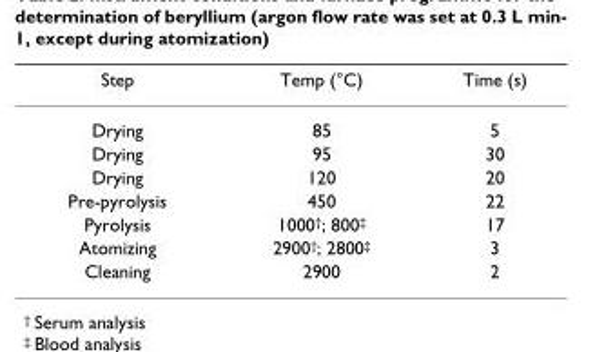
<table><thead><tr><td>Step</td><td>Temp (°C)</td><td>Time (s)</td></tr></thead><tbody><tr><td>Drying</td><td>85</td><td>5</td></tr><tr><td>Drying</td><td>95</td><td>30</td></tr><tr><td>Drying</td><td>120</td><td>20</td></tr><tr><td>Pre-pyrolysis</td><td>450</td><td>22</td></tr><tr><td>Pyrolysis</td><td>1000<sup>†</sup>; 800<sup>‡</sup></td><td>17</td></tr><tr><td>Atomizing</td><td>2900<sup>†</sup>; 2800<sup>‡</sup></td><td>3</td></tr><tr><td>Cleaning</td><td>2900</td><td>2</td></tr></tbody></table>